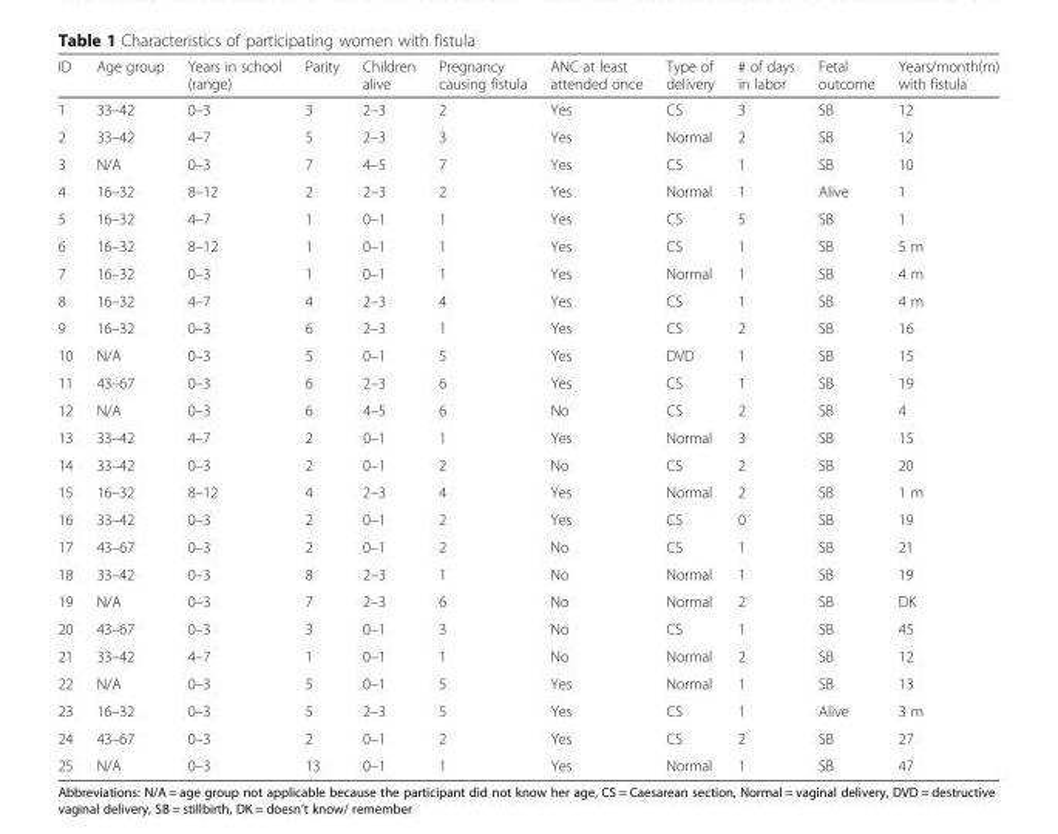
<table><thead><tr><td>ID</td><td>Age group</td><td>Years in school (range)</td><td>Parity</td><td>Children alive</td><td>Pregnancy causing fistula</td><td>ANC at least attended once</td><td>Type of delivery</td><td># of days in labor</td><td>Fetal outcome</td><td>Years/month(m) with fistula</td></tr></thead><tbody><tr><td>1</td><td>33–42</td><td>0–3</td><td>3</td><td>2–3</td><td>2</td><td>Yes</td><td>CS</td><td>3</td><td>SB</td><td>12</td></tr><tr><td>2</td><td>33–42</td><td>4–7</td><td>5</td><td>2–3</td><td>3</td><td>Yes</td><td>Normal</td><td>2</td><td>SB</td><td>12</td></tr><tr><td>3</td><td>N/A</td><td>0–3</td><td>7</td><td>4–5</td><td>7</td><td>Yes</td><td>CS</td><td>1</td><td>SB</td><td>10</td></tr><tr><td>4</td><td>16–32</td><td>8–12</td><td>2</td><td>2–3</td><td>2</td><td>Yes</td><td>Normal</td><td>1</td><td>Alive</td><td>1</td></tr><tr><td>5</td><td>16–32</td><td>4–7</td><td>1</td><td>0–1</td><td>1</td><td>Yes</td><td>CS</td><td>5</td><td>SB</td><td>1</td></tr><tr><td>6</td><td>16–32</td><td>8–12</td><td>1</td><td>0–1</td><td>1</td><td>Yes</td><td>CS</td><td>1</td><td>SB</td><td>5 m</td></tr><tr><td>7</td><td>16–32</td><td>0–3</td><td>1</td><td>0–1</td><td>1</td><td>Yes</td><td>Normal</td><td>1</td><td>SB</td><td>4 m</td></tr><tr><td>8</td><td>16–32</td><td>4–7</td><td>4</td><td>2–3</td><td>4</td><td>Yes</td><td>CS</td><td>1</td><td>SB</td><td>4 m</td></tr><tr><td>9</td><td>16–32</td><td>0–3</td><td>6</td><td>2–3</td><td>1</td><td>Yes</td><td>CS</td><td>2</td><td>SB</td><td>16</td></tr><tr><td>10</td><td>N/A</td><td>0–3</td><td>5</td><td>0–1</td><td>5</td><td>Yes</td><td>DVD</td><td>1</td><td>SB</td><td>15</td></tr><tr><td>11</td><td>43–67</td><td>0–3</td><td>6</td><td>2–3</td><td>6</td><td>Yes</td><td>CS</td><td>1</td><td>SB</td><td>19</td></tr><tr><td>12</td><td>N/A</td><td>0–3</td><td>6</td><td>4–5</td><td>6</td><td>No</td><td>CS</td><td>2</td><td>SB</td><td>4</td></tr><tr><td>13</td><td>33–42</td><td>4–7</td><td>2</td><td>0–1</td><td>1</td><td>Yes</td><td>Normal</td><td>3</td><td>SB</td><td>15</td></tr><tr><td>14</td><td>33–42</td><td>0–3</td><td>2</td><td>0–1</td><td>2</td><td>No</td><td>CS</td><td>2</td><td>SB</td><td>20</td></tr><tr><td>15</td><td>16–32</td><td>8–12</td><td>4</td><td>2–3</td><td>4</td><td>Yes</td><td>Normal</td><td>2</td><td>SB</td><td>1 m</td></tr><tr><td>16</td><td>33–42</td><td>0–3</td><td>2</td><td>0–1</td><td>2</td><td>Yes</td><td>CS</td><td>0</td><td>SB</td><td>19</td></tr><tr><td>17</td><td>43–67</td><td>0–3</td><td>2</td><td>0–1</td><td>2</td><td>No</td><td>CS</td><td>1</td><td>SB</td><td>21</td></tr><tr><td>18</td><td>33–42</td><td>0–3</td><td>8</td><td>2–3</td><td>1</td><td>No</td><td>Normal</td><td>1</td><td>SB</td><td>19</td></tr><tr><td>19</td><td>N/A</td><td>0–3</td><td>7</td><td>2–3</td><td>6</td><td>No</td><td>Normal</td><td>2</td><td>SB</td><td>DK</td></tr><tr><td>20</td><td>43–67</td><td>0–3</td><td>3</td><td>0–1</td><td>3</td><td>No</td><td>CS</td><td>1</td><td>SB</td><td>45</td></tr><tr><td>21</td><td>33–42</td><td>4–7</td><td>1</td><td>0–1</td><td>1</td><td>No</td><td>Normal</td><td>2</td><td>SB</td><td>12</td></tr><tr><td>22</td><td>N/A</td><td>0–3</td><td>5</td><td>0–1</td><td>5</td><td>Yes</td><td>Normal</td><td>1</td><td>SB</td><td>13</td></tr><tr><td>23</td><td>16–32</td><td>0–3</td><td>5</td><td>2–3</td><td>5</td><td>Yes</td><td>CS</td><td>1</td><td>Alive</td><td>3 m</td></tr><tr><td>24</td><td>43–67</td><td>0–3</td><td>2</td><td>0–1</td><td>2</td><td>Yes</td><td>CS</td><td>2</td><td>SB</td><td>27</td></tr><tr><td>25</td><td>N/A</td><td>0–3</td><td>13</td><td>0–1</td><td>1</td><td>Yes</td><td>Normal</td><td>1</td><td>SB</td><td>47</td></tr></tbody></table>